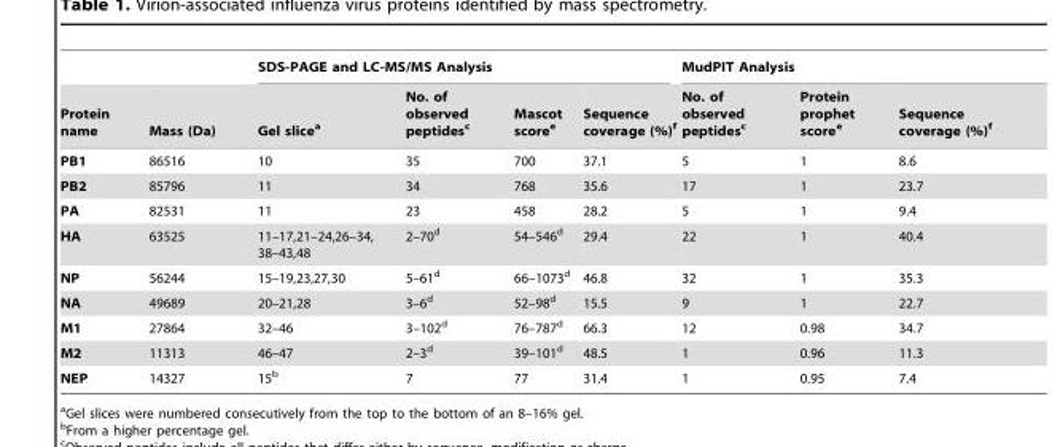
<table><thead><tr><td rowspan="2">Protein name</td><td rowspan="2">Mass (Da)</td><td colspan="4">SDS-PAGE and LC-MS/MS Analysis</td><td colspan="3">MudPIT Analysis</td></tr><tr><td>Gel slice<sup>a</sup></td><td>No. of observed peptides<sup>c</sup></td><td>Mascot score<sup>e</sup></td><td>Sequence coverage (%)<sup>f</sup></td><td>No. of observed peptides<sup>c</sup></td><td>Protein prophet score<sup>e</sup></td><td>Sequence coverage (%)<sup>f</sup></td></tr></thead><tbody><tr><td>PB1</td><td>86516</td><td>10</td><td>35</td><td>700</td><td>37.1</td><td>5</td><td>1</td><td>8.6</td></tr><tr><td>PB2</td><td>85796</td><td>11</td><td>34</td><td>768</td><td>35.6</td><td>17</td><td>1</td><td>23.7</td></tr><tr><td>PA</td><td>82531</td><td>11</td><td>23</td><td>458</td><td>28.2</td><td>5</td><td>1</td><td>9.4</td></tr><tr><td>HA</td><td>63525</td><td>11–17,21–24,26–34, 38–43,48</td><td>2–70<sup>d</sup></td><td>54–546<sup>d</sup></td><td>29.4</td><td>22</td><td>1</td><td>40.4</td></tr><tr><td>NP</td><td>56244</td><td>15–19,23,27,30</td><td>5–61<sup>d</sup></td><td>66–1073<sup>d</sup></td><td>46.8</td><td>32</td><td>1</td><td>35.3</td></tr><tr><td>NA</td><td>49689</td><td>20–21,28</td><td>3–6<sup>d</sup></td><td>52–98<sup>d</sup></td><td>15.5</td><td>9</td><td>1</td><td>22.7</td></tr><tr><td>M1</td><td>27864</td><td>32–46</td><td>3–102<sup>d</sup></td><td>76–787<sup>d</sup></td><td>66.3</td><td>12</td><td>0.98</td><td>34.7</td></tr><tr><td>M2</td><td>11313</td><td>46–47</td><td>2–3<sup>d</sup></td><td>39–101<sup>d</sup></td><td>48.5</td><td>1</td><td>0.96</td><td>11.3</td></tr><tr><td>NEP</td><td>14327</td><td>15<sup>b</sup></td><td>7</td><td>77</td><td>31.4</td><td>1</td><td>0.95</td><td>7.4</td></tr></tbody></table>